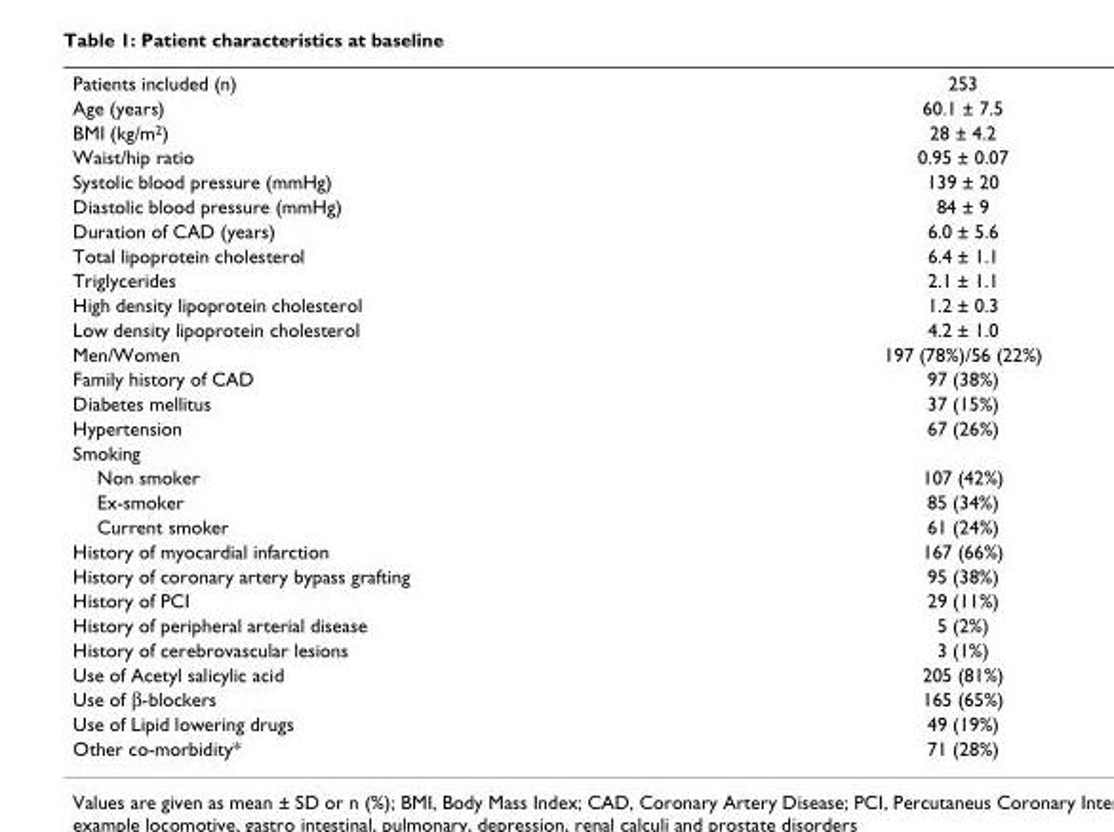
<table><tbody><tr><td>Patients included (n)</td><td>253</td></tr><tr><td>Age (years)</td><td>60.1 ± 7.5</td></tr><tr><td>BMI (kg/m<sup>2</sup>)</td><td>28 ± 4.2</td></tr><tr><td>Waist/hip ratio</td><td>0.95 ± 0.07</td></tr><tr><td>Systolic blood pressure (mmHg)</td><td>139 ± 20</td></tr><tr><td>Diastolic blood pressure (mmHg)</td><td>84 ± 9</td></tr><tr><td>Duration of CAD (years)</td><td>6.0 ± 5.6</td></tr><tr><td>Total lipoprotein cholesterol</td><td>6.4 ± 1.1</td></tr><tr><td>Triglycerides</td><td>2.1 ± 1.1</td></tr><tr><td>High density lipoprotein cholesterol</td><td>1.2 ± 0.3</td></tr><tr><td>Low density lipoprotein cholesterol</td><td>4.2 ± 1.0</td></tr><tr><td>Men/Women</td><td>197 (78%)/56 (22%)</td></tr><tr><td>Family history of CAD</td><td>97 (38%)</td></tr><tr><td>Diabetes mellitus</td><td>37 (15%)</td></tr><tr><td>Hypertension</td><td>67 (26%)</td></tr><tr><td colspan="2">Smoking</td></tr><tr><td>Non smoker</td><td>107 (42%)</td></tr><tr><td>Ex-smoker</td><td>85 (34%)</td></tr><tr><td>Current smoker</td><td>61 (24%)</td></tr><tr><td>History of myocardial infarction</td><td>167 (66%)</td></tr><tr><td>History of coronary artery bypass grafting</td><td>95 (38%)</td></tr><tr><td>History of PCI</td><td>29 (11%)</td></tr><tr><td>History of peripheral arterial disease</td><td>5 (2%)</td></tr><tr><td>History of cerebrovascular lesions</td><td>3 (1%)</td></tr><tr><td>Use of Acetyl salicylic acid</td><td>205 (81%)</td></tr><tr><td>Use of β-blockers</td><td>165 (65%)</td></tr><tr><td>Use of Lipid lowering drugs</td><td>49 (19%)</td></tr><tr><td>Other co-morbidity*</td><td>71 (28%)</td></tr></tbody></table>